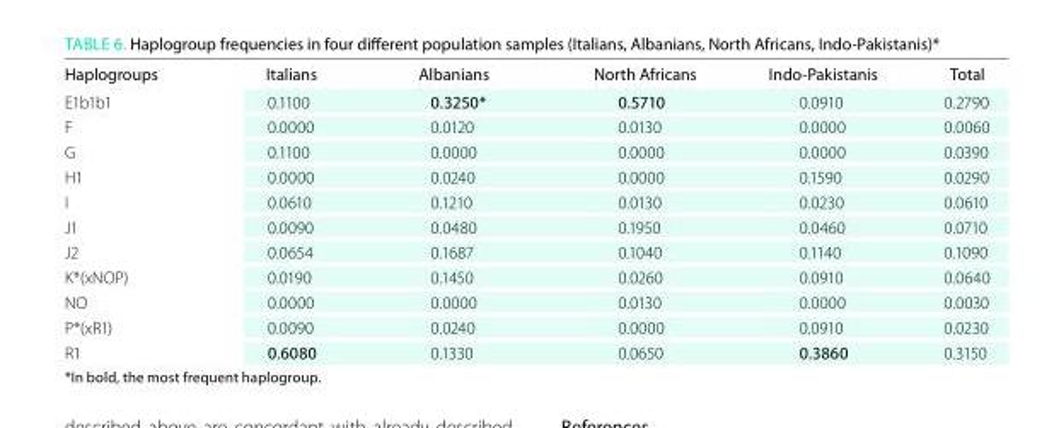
<table><thead><tr><td>haplogroups</td><td>italians</td><td>Albanians</td><td>North Africans</td><td>indo-Pakistanis</td><td>total</td></tr></thead><tbody><tr><td>E1b1b1</td><td>0.1100</td><td>0.3250*</td><td>0.5710</td><td>0.0910</td><td>0.2790</td></tr><tr><td>F</td><td>0.0000</td><td>0.0120</td><td>0.0130</td><td>0.0000</td><td>0.0060</td></tr><tr><td>G</td><td>0.1100</td><td>0.0000</td><td>0.0000</td><td>0.0000</td><td>0.0390</td></tr><tr><td>H1</td><td>0.0000</td><td>0.0240</td><td>0.0000</td><td>0.1590</td><td>0.0290</td></tr><tr><td>I</td><td>0.0610</td><td>0.1210</td><td>0.0130</td><td>0.0230</td><td>0.0610</td></tr><tr><td>J1</td><td>0.0090</td><td>0.0480</td><td>0.1950</td><td>0.0460</td><td>0.0710</td></tr><tr><td>J2</td><td>0.0654</td><td>0.1687</td><td>0.1040</td><td>0.1140</td><td>0.1090</td></tr><tr><td>K*(xNOP)</td><td>0.0190</td><td>0.1450</td><td>0.0260</td><td>0.0910</td><td>0.0640</td></tr><tr><td>NO</td><td>0.0000</td><td>0.0000</td><td>0.0130</td><td>0.0000</td><td>0.0030</td></tr><tr><td>P*(xR1)</td><td>0.0090</td><td>0.0240</td><td>0.0000</td><td>0.0910</td><td>0.0230</td></tr><tr><td>R1</td><td>0.6080</td><td>0.1330</td><td>0.0650</td><td>0.3860</td><td>0.3150</td></tr></tbody></table>